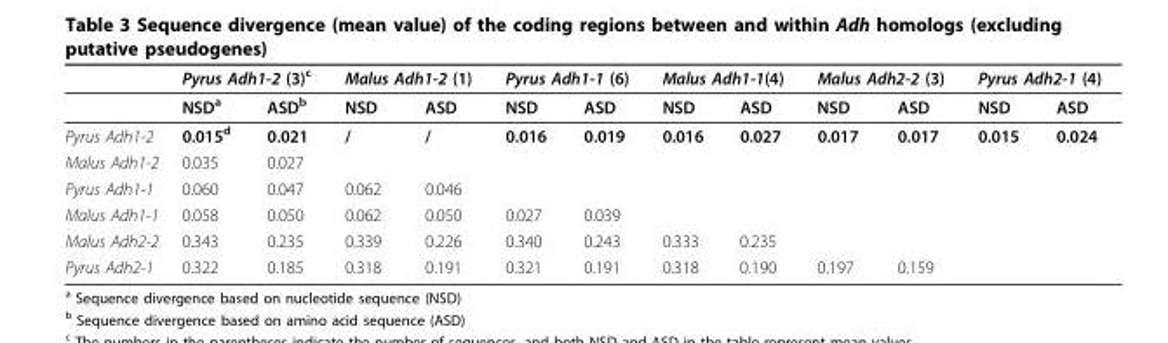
<table><thead><tr><td rowspan="2"></td><td colspan="2">Pyrus Adh1-2 (3)<sup>c</sup></td><td colspan="2">Malus Adh1-2 (1)</td><td colspan="2">Pyrus Adh1-1 (6)</td><td colspan="2">Malus Adh1-1(4)</td><td colspan="2">Malus Adh2-2 (3)</td><td colspan="2">Pyrus Adh2-1 (4)</td></tr><tr><td>NSD<sup>a</sup></td><td>ASD<sup>b</sup></td><td>NSD</td><td>ASD</td><td>NSD</td><td>ASD</td><td>NSD</td><td>ASD</td><td>NSD</td><td>ASD</td><td>NSD</td><td>ASD</td></tr></thead><tbody><tr><td>Pyrus Adh1-2</td><td>0.015<sup>d</sup></td><td>0.021</td><td>/</td><td>/</td><td>0.016</td><td>0.019</td><td>0.016</td><td>0.027</td><td>0.017</td><td>0.017</td><td>0.015</td><td>0.024</td></tr><tr><td>Malus Adh1-2</td><td>0.035</td><td>0.027</td><td></td><td></td><td></td><td></td><td></td><td></td><td></td><td></td><td></td><td></td></tr><tr><td>Pyrus Adh1-1</td><td>0.060</td><td>0.047</td><td>0.062</td><td>0.046</td><td></td><td></td><td></td><td></td><td></td><td></td><td></td><td></td></tr><tr><td>Malus Adh1-1</td><td>0.058</td><td>0.050</td><td>0.062</td><td>0.050</td><td>0.027</td><td>0.039</td><td></td><td></td><td></td><td></td><td></td><td></td></tr><tr><td>Malus Adh2-2</td><td>0.343</td><td>0.235</td><td>0.339</td><td>0.226</td><td>0.340</td><td>0.243</td><td>0.333</td><td>0.235</td><td></td><td></td><td></td><td></td></tr><tr><td>Pyrus Adh2-1</td><td>0.322</td><td>0.185</td><td>0.318</td><td>0.191</td><td>0.321</td><td>0.191</td><td>0.318</td><td>0.190</td><td>0.197</td><td>0.159</td><td></td><td></td></tr></tbody></table>